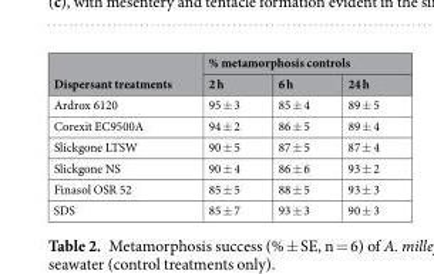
<table><thead><tr><td rowspan="2">Dispersant treatments</td><td colspan="3">% metamorphosis controls</td></tr><tr><td>2 h</td><td>6 h</td><td>24 h</td></tr></thead><tbody><tr><td>Ardrox 6120</td><td>95 ± 3</td><td>85 ± 4</td><td>89 ± 5</td></tr><tr><td>Corexit EC9500A</td><td>94 ± 2</td><td>86 ± 5</td><td>89 ± 4</td></tr><tr><td>Slickgone LTSW</td><td>90 ± 5</td><td>87 ± 5</td><td>87 ± 4</td></tr><tr><td>Slickgone NS</td><td>90 ± 4</td><td>86 ± 6</td><td>93 ± 2</td></tr><tr><td>Finasol OSR 52</td><td>85 ± 5</td><td>88 ± 5</td><td>93 ± 3</td></tr><tr><td>SDS</td><td>85 ± 7</td><td>93 ± 3</td><td>90 ± 3</td></tr></tbody></table>